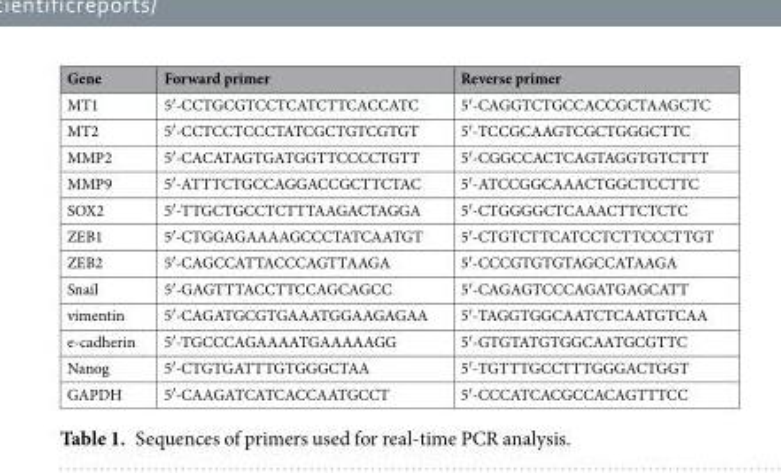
<table><thead><tr><td>Gene</td><td>Forward primer</td><td>Reverse primer</td></tr></thead><tbody><tr><td>MT1</td><td>5′-CCTGCGTCCTCATCTTCACCATC</td><td>5′-CAGGTCTGCCACCGCTAAGCTC</td></tr><tr><td>MT2</td><td>5′-CCTCCTCCCTATCGCTGTCGTGT</td><td>5′-TCCGCAAGTCGCTGGGCTTC</td></tr><tr><td>MMP2</td><td>5′-CACATAGTGATGGTTCCCCTGTT</td><td>5′-CGGCCACTCAGTAGGTGTCTTT</td></tr><tr><td>MMP9</td><td>5′-ATTTCTGCCAGGACCGCTTCTAC</td><td>5′-ATCCGGCAAACTGGCTCCTTC</td></tr><tr><td>SOX2</td><td>5′-TTGCTGCCTCTTTAAGACTAGGA</td><td>5′-CTGGGGCTCAAACTTCTCTC</td></tr><tr><td>ZEB1</td><td>5′-CTGGAGAAAAGCCCTATCAATGT</td><td>5′-CTGTCTTCATCCTCTTCCCTTGT</td></tr><tr><td>ZEB2</td><td>5′-CAGCCATTACCCAGTTAAGA</td><td>5′-CCCGTGTGTAGCCATAAGA</td></tr><tr><td>Snail</td><td>5′-GAGTTTACCTTCCAGCAGCC</td><td>5′-CAGAGTCCCAGATGAGCATT</td></tr><tr><td>vimentin</td><td>5′-CAGATGCGTGAAATGGAAGAGAA</td><td>5′-TAGGTGGCAATCTCAATGTCAA</td></tr><tr><td>e-cadherin</td><td>5′-TGCCCAGAAAATGAAAAAGG</td><td>5′-GTGTATGTGGCAATGCGTTC</td></tr><tr><td>Nanog</td><td>5′-CTGTGATTTGTGGGCTAA</td><td>5′-TGTTTGCCTTTGGGACTGGT</td></tr><tr><td>GAPDH</td><td>5′-CAAGATCATCACCAATGCCT</td><td>5′-CCCATCACGCCACAGTTTCC</td></tr></tbody></table>